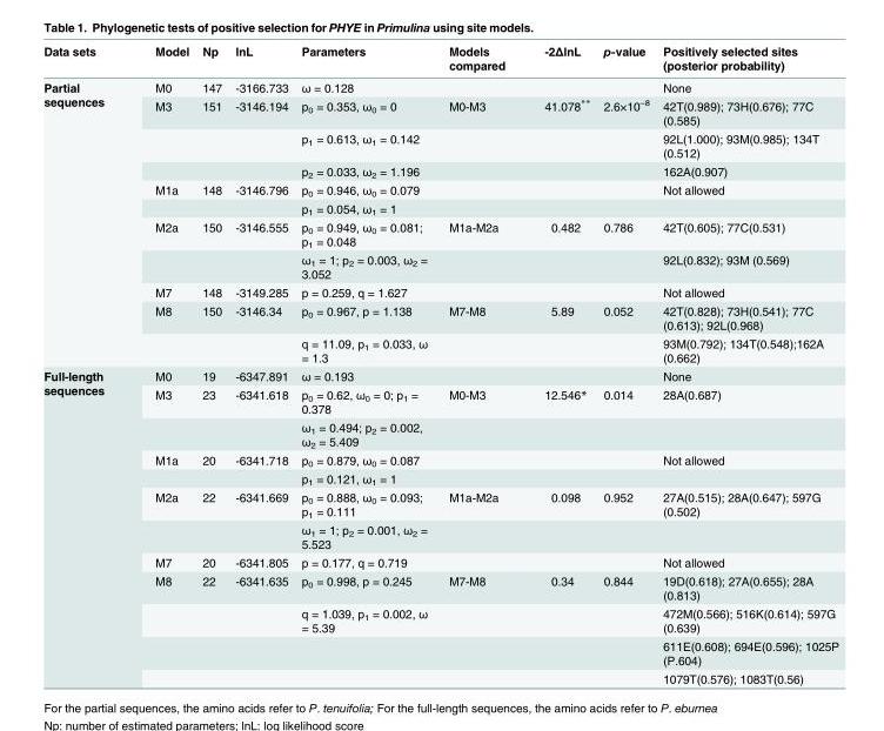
<table><thead><tr><td>Data sets</td><td>Model</td><td>Np</td><td>lnL</td><td>Parameters</td><td>Models compared</td><td>-2ΔlnL</td><td>p-value</td><td>Positively selected sites (posterior probability)</td></tr></thead><tbody><tr><td rowspan="11">Partial sequences</td><td>M0</td><td>147</td><td>-3166.733</td><td>ω = 0.128</td><td></td><td></td><td></td><td>None</td></tr><tr><td>M3</td><td>151</td><td>-3146.194</td><td>p<sub>0</sub> = 0.353, ω<sub>0</sub> = 0</td><td>M0-M3</td><td>41.078**</td><td>2.6×10<sup>–8</sup></td><td>42T(0.989); 73H(0.676); 77C (0.585)</td></tr><tr><td></td><td></td><td></td><td>p<sub>1</sub> = 0.613, ω<sub>1</sub> = 0.142</td><td></td><td></td><td></td><td>92L(1.000); 93M(0.985); 134T (0.512)</td></tr><tr><td></td><td></td><td></td><td>p<sub>2</sub> = 0.033, ω<sub>2</sub> = 1.196</td><td></td><td></td><td></td><td>162A(0.907)</td></tr><tr><td>M1a</td><td>148</td><td>-3146.796</td><td>p<sub>0</sub> = 0.946, ω<sub>0</sub> = 0.079</td><td></td><td></td><td></td><td>Not allowed</td></tr><tr><td></td><td></td><td></td><td>p<sub>1</sub> = 0.054, ω<sub>1</sub> = 1</td><td></td><td></td><td></td><td></td></tr><tr><td>M2a</td><td>150</td><td>-3146.555</td><td>p<sub>0</sub> = 0.949, ω<sub>0</sub> = 0.081; p<sub>1</sub> = 0.048</td><td>M1a-M2a</td><td>0.482</td><td>0.786</td><td>42T(0.605); 77C(0.531)</td></tr><tr><td></td><td></td><td></td><td>ω<sub>1</sub> = 1; p<sub>2</sub> = 0.003, ω<sub>2</sub> = 3.052</td><td></td><td></td><td></td><td>92L(0.832); 93M (0.569)</td></tr><tr><td>M7</td><td>148</td><td>-3149.285</td><td>p = 0.259, q = 1.627</td><td></td><td></td><td></td><td>Not allowed</td></tr><tr><td>M8</td><td>150</td><td>-3146.34</td><td>p<sub>0</sub> = 0.967, p = 1.138</td><td>M7-M8</td><td>5.89</td><td>0.052</td><td>42T(0.828); 73H(0.541); 77C (0.613); 92L(0.968)</td></tr><tr><td></td><td></td><td></td><td>q = 11.09, p<sub>1</sub> = 0.033, ω = 1.3</td><td></td><td></td><td></td><td>93M(0.792); 134T(0.548);162A (0.662)</td></tr><tr><td rowspan="12">Full-length sequences</td><td>M0</td><td>19</td><td>-6347.891</td><td>ω = 0.193</td><td></td><td></td><td></td><td>None</td></tr><tr><td>M3</td><td>23</td><td>-6341.618</td><td>p<sub>0</sub> = 0.62, ω<sub>0</sub> = 0; p<sub>1</sub> = 0.378</td><td>M0-M3</td><td>12.546*</td><td>0.014</td><td>28A(0.687)</td></tr><tr><td></td><td></td><td></td><td>ω<sub>1</sub> = 0.494; p<sub>2</sub> = 0.002, ω<sub>2</sub> = 5.409</td><td></td><td></td><td></td><td></td></tr><tr><td>M1a</td><td>20</td><td>-6341.718</td><td>p<sub>0</sub> = 0.879, ω<sub>0</sub> = 0.087</td><td></td><td></td><td></td><td>Not allowed</td></tr><tr><td></td><td></td><td></td><td>p<sub>1</sub> = 0.121, ω<sub>1</sub> = 1</td><td></td><td></td><td></td><td></td></tr><tr><td>M2a</td><td>22</td><td>-6341.669</td><td>p<sub>0</sub> = 0.888, ω<sub>0</sub> = 0.093; p<sub>1</sub> = 0.111</td><td>M1a-M2a</td><td>0.098</td><td>0.952</td><td>27A(0.515); 28A(0.647); 597G (0.502)</td></tr><tr><td></td><td></td><td></td><td>ω<sub>1</sub> = 1; p<sub>2</sub> = 0.001, ω<sub>2</sub> = 5.523</td><td></td><td></td><td></td><td></td></tr><tr><td>M7</td><td>20</td><td>-6341.805</td><td>p = 0.177, q = 0.719</td><td></td><td></td><td></td><td>Not allowed</td></tr><tr><td>M8</td><td>22</td><td>-6341.635</td><td>p<sub>0</sub> = 0.998, p = 0.245</td><td>M7-M8</td><td>0.34</td><td>0.844</td><td>19D(0.618); 27A(0.655); 28A (0.813)</td></tr><tr><td></td><td></td><td></td><td>q = 1.039, p<sub>1</sub> = 0.002, ω = 5.39</td><td></td><td></td><td></td><td>472M(0.566); 516K(0.614); 597G (0.639)</td></tr><tr><td></td><td></td><td></td><td></td><td></td><td></td><td></td><td>611E(0.608); 694E(0.596); 1025P (P.604)</td></tr><tr><td></td><td></td><td></td><td></td><td></td><td></td><td></td><td>1079T(0.576); 1083T(0.56)</td></tr></tbody></table>